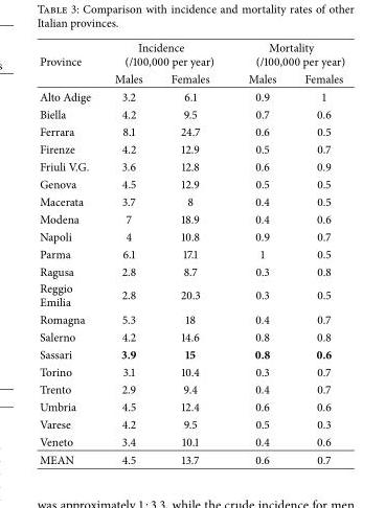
<table><thead><tr><td rowspan="2">Province</td><td colspan="2">Incidence (/100,000 per year)</td><td colspan="2">Mortality (/100,000 per year)</td></tr><tr><td>Males</td><td>Females</td><td>Males</td><td>Females</td></tr></thead><tbody><tr><td>Alto Adige</td><td>3.2</td><td>6.1</td><td>0.9</td><td>1</td></tr><tr><td>Biella</td><td>4.2</td><td>9.5</td><td>0.7</td><td>0.6</td></tr><tr><td>Ferrara</td><td>8.1</td><td>24.7</td><td>0.6</td><td>0.5</td></tr><tr><td>Firenze</td><td>4.2</td><td>12.9</td><td>0.5</td><td>0.7</td></tr><tr><td>Friuli V.G.</td><td>3.6</td><td>12.8</td><td>0.6</td><td>0.9</td></tr><tr><td>Genova</td><td>4.5</td><td>12.9</td><td>0.5</td><td>0.5</td></tr><tr><td>Macerata</td><td>3.7</td><td>8</td><td>0.4</td><td>0.5</td></tr><tr><td>Modena</td><td>7</td><td>18.9</td><td>0.4</td><td>0.6</td></tr><tr><td>Napoli</td><td>4</td><td>10.8</td><td>0.9</td><td>0.7</td></tr><tr><td>Parma</td><td>6.1</td><td>17.1</td><td>1</td><td>0.5</td></tr><tr><td>Ragusa</td><td>2.8</td><td>8.7</td><td>0.3</td><td>0.8</td></tr><tr><td>Reggio Emilia</td><td>2.8</td><td>20.3</td><td>0.3</td><td>0.5</td></tr><tr><td>Romagna</td><td>5.3</td><td>18</td><td>0.4</td><td>0.7</td></tr><tr><td>Salerno</td><td>4.2</td><td>14.6</td><td>0.8</td><td>0.8</td></tr><tr><td>Sassari</td><td>3.9</td><td>15</td><td>0.8</td><td>0.6</td></tr><tr><td>Torino</td><td>3.1</td><td>10.4</td><td>0.3</td><td>0.7</td></tr><tr><td>Trento</td><td>2.9</td><td>9.4</td><td>0.4</td><td>0.7</td></tr><tr><td>Umbria</td><td>4.5</td><td>12.4</td><td>0.6</td><td>0.6</td></tr><tr><td>Varese</td><td>4.2</td><td>9.5</td><td>0.5</td><td>0.3</td></tr><tr><td>Veneto</td><td>3.4</td><td>10.1</td><td>0.4</td><td>0.6</td></tr><tr><td>MEAN</td><td>4.5</td><td>13.7</td><td>0.6</td><td>0.7</td></tr></tbody></table>